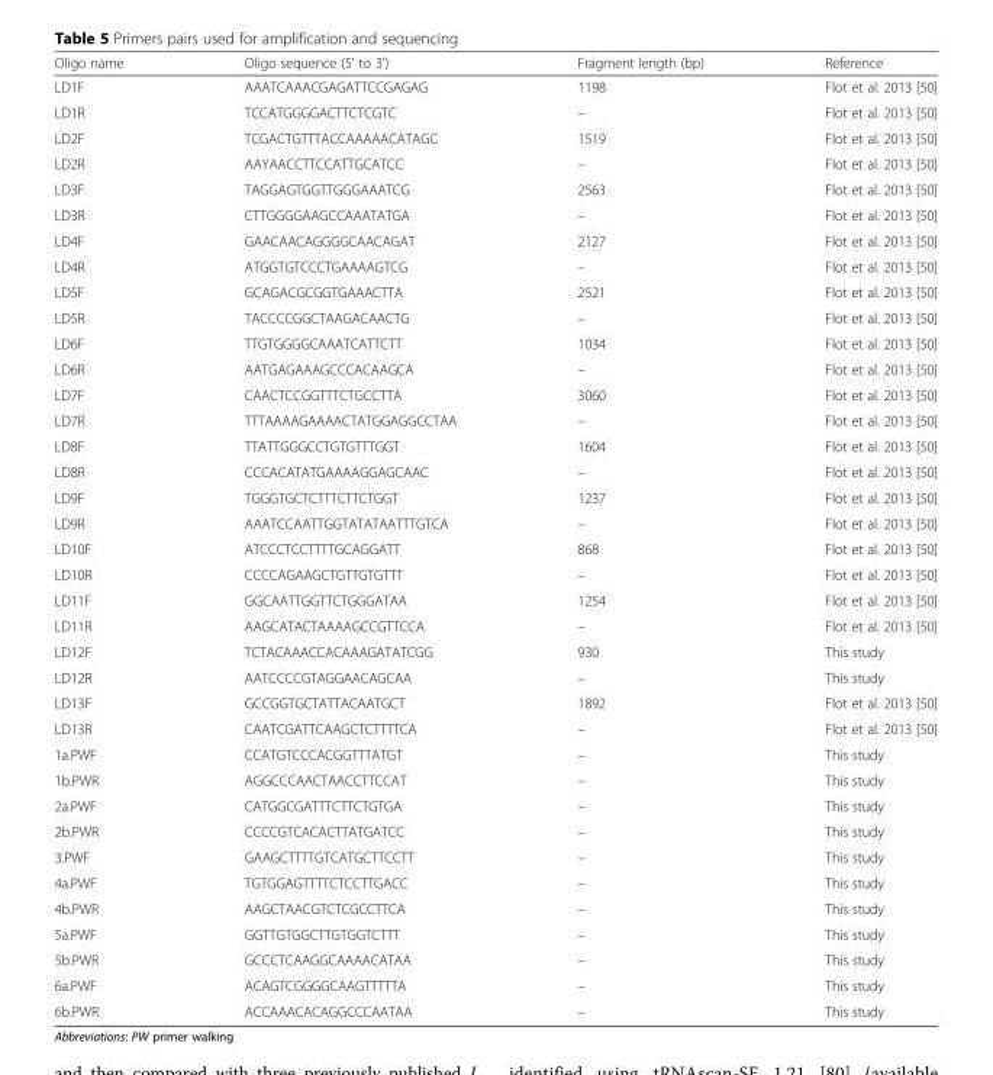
<table><thead><tr><td>Oligo name</td><td>Oligo sequence (5&#x27; to 3&#x27;)</td><td>Fragment length (bp)</td><td>Reference</td></tr></thead><tbody><tr><td>LD1F</td><td>AAATCAAACGAGATTCCGAGAG</td><td>1198</td><td>Flot et al. 2013 [50]</td></tr><tr><td>LD1R</td><td>TCCATGGGGACTTCTCGTC</td><td>–</td><td>Flot et al. 2013 [50]</td></tr><tr><td>LD2F</td><td>TCGACTGTTTACCAAAAACATAGC</td><td>1519</td><td>Flot et al. 2013 [50]</td></tr><tr><td>LD2R</td><td>AAYAACCTTCCATTGCATCC</td><td>–</td><td>Flot et al. 2013 [50]</td></tr><tr><td>LD3F</td><td>TAGGAGTGGTTGGGAAATCG</td><td>2563</td><td>Flot et al. 2013 [50]</td></tr><tr><td>LD3R</td><td>CTTGGGGAAGCCAAATATGA</td><td>–</td><td>Flot et al. 2013 [50]</td></tr><tr><td>LD4F</td><td>GAACAACAGGGGCAACAGAT</td><td>2127</td><td>Flot et al. 2013 [50]</td></tr><tr><td>LD4R</td><td>ATGGTGTCCCTGAAAAGTCG</td><td>–</td><td>Flot et al. 2013 [50]</td></tr><tr><td>LD5F</td><td>GCAGACGCGGTGAAACTTA</td><td>2521</td><td>Flot et al. 2013 [50]</td></tr><tr><td>LD5R</td><td>TACCCCGGCTAAGACAACTG</td><td>–</td><td>Flot et al. 2013 [50]</td></tr><tr><td>LD6F</td><td>TTGTGGGGCAAATCATTCTT</td><td>1034</td><td>Flot et al. 2013 [50]</td></tr><tr><td>LD6R</td><td>AATGAGAAAGCCCACAAGCA</td><td>–</td><td>Flot et al. 2013 [50]</td></tr><tr><td>LD7F</td><td>CAACTCCGGTTTCTGCCTTA</td><td>3060</td><td>Flot et al. 2013 [50]</td></tr><tr><td>LD7R</td><td>TTTAAAAGAAAACTATGGAGGCCTAA</td><td>–</td><td>Flot et al. 2013 [50]</td></tr><tr><td>LD8F</td><td>TTATTGGGCCTGTGTTTGGT</td><td>1604</td><td>Flot et al. 2013 [50]</td></tr><tr><td>LD8R</td><td>CCCACATATGAAAAGGAGCAAC</td><td>–</td><td>Flot et al. 2013 [50]</td></tr><tr><td>LD9F</td><td>TGGGTGCTCTTTCTTCTGGT</td><td>1237</td><td>Flot et al. 2013 [50]</td></tr><tr><td>LD9R</td><td>AAATCCAATTGGTATATAATTTGTCA</td><td>–</td><td>Flot et al. 2013 [50]</td></tr><tr><td>LD10F</td><td>ATCCCTCCTTTTGCAGGATT</td><td>868</td><td>Flot et al. 2013 [50]</td></tr><tr><td>LD10R</td><td>CCCCAGAAGCTGTTGTGTTT</td><td>–</td><td>Flot et al. 2013 [50]</td></tr><tr><td>LD11F</td><td>GGCAATTGGTTCTGGGATAA</td><td>1254</td><td>Flot et al. 2013 [50]</td></tr><tr><td>LD11R</td><td>AAGCATACTAAAAGCCGTTCCA</td><td>–</td><td>Flot et al. 2013 [50]</td></tr><tr><td>LD12F</td><td>TCTACAAACCACAAAGATATCGG</td><td>930</td><td>This study</td></tr><tr><td>LD12R</td><td>AATCCCCGTAGGAACAGCAA</td><td>–</td><td>This study</td></tr><tr><td>LD13F</td><td>GCCGGTGCTATTACAATGCT</td><td>1892</td><td>Flot et al. 2013 [50]</td></tr><tr><td>LD13R</td><td>CAATCGATTCAAGCTCTTTTCA</td><td>–</td><td>Flot et al. 2013 [50]</td></tr><tr><td>1a.PWF</td><td>CCATGTCCCACGGTTTATGT</td><td>–</td><td>This study</td></tr><tr><td>1b.PWR</td><td>AGGCCCAACTAACCTTCCAT</td><td>–</td><td>This study</td></tr><tr><td>2a.PWF</td><td>CATGGCGATTTCTTCTGTGA</td><td>–</td><td>This study</td></tr><tr><td>2b.PWR</td><td>CCCCGTCACACTTATGATCC</td><td>–</td><td>This study</td></tr><tr><td>3.PWF</td><td>GAAGCTTTTGTCATGCTTCCTT</td><td>–</td><td>This study</td></tr><tr><td>4a.PWF</td><td>TGTGGAGTTTTCTCCTTGACC</td><td>–</td><td>This study</td></tr><tr><td>4b.PWR</td><td>AAGCTAACGTCTCGCCTTCA</td><td>–</td><td>This study</td></tr><tr><td>5a.PWF</td><td>GGTTGTGGCTTGTGGTCTTT</td><td>–</td><td>This study</td></tr><tr><td>5b.PWR</td><td>GCCCTCAAGGCAAAACATAA</td><td>–</td><td>This study</td></tr><tr><td>6a.PWF</td><td>ACAGTCGGGGCAAGTTTTTA</td><td>–</td><td>This study</td></tr><tr><td>6b.PWR</td><td>ACCAAACACAGGCCCAATAA</td><td>–</td><td>This study</td></tr></tbody></table>